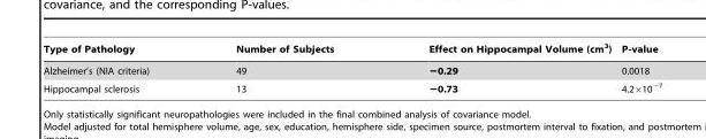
<table><thead><tr><td>Type of Pathology</td><td>Number of Subjects</td><td>Effect on Hippocampal Volume (cm<sup>3</sup>)</td><td>P-value</td></tr></thead><tbody><tr><td>Alzheimer’s (NIA criteria)</td><td>49</td><td>−0.29</td><td>0.0018</td></tr><tr><td>Hippocampal sclerosis</td><td>13</td><td>−0.73</td><td>4.2×10<sup>−7</sup></td></tr></tbody></table>